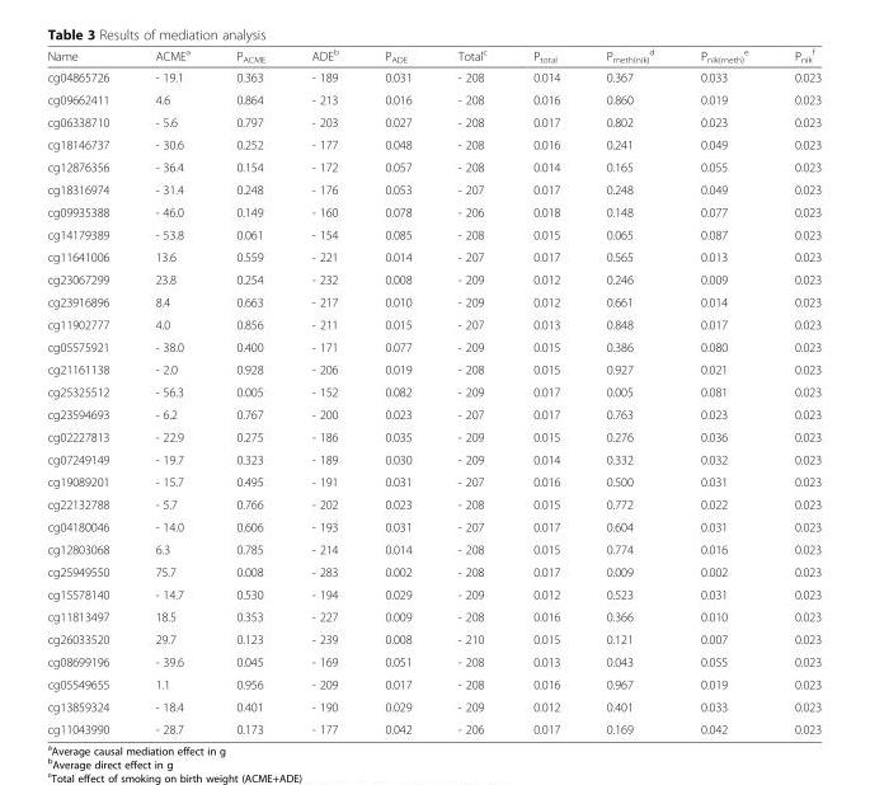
<table><thead><tr><td>Name</td><td>ACME<sup>a</sup></td><td>P<sub>ACME</sub></td><td>ADE<sup>b</sup></td><td>P<sub>ADE</sub></td><td>Total<sup>c</sup></td><td>P<sub>total</sub></td><td>P<sub>meth(nik)</sub> <sup>d</sup></td><td>P<sub>nik(meth)</sub> <sup>e</sup></td><td>P<sub>nik</sub> <sup>f</sup></td></tr></thead><tbody><tr><td>cg04865726</td><td>- 19.1</td><td>0.363</td><td>- 189</td><td>0.031</td><td>- 208</td><td>0.014</td><td>0.367</td><td>0.033</td><td>0.023</td></tr><tr><td>cg09662411</td><td>4.6</td><td>0.864</td><td>- 213</td><td>0.016</td><td>- 208</td><td>0.016</td><td>0.860</td><td>0.019</td><td>0.023</td></tr><tr><td>cg06338710</td><td>- 5.6</td><td>0.797</td><td>- 203</td><td>0.027</td><td>- 208</td><td>0.017</td><td>0.802</td><td>0.023</td><td>0.023</td></tr><tr><td>cg18146737</td><td>- 30.6</td><td>0.252</td><td>- 177</td><td>0.048</td><td>- 208</td><td>0.016</td><td>0.241</td><td>0.049</td><td>0.023</td></tr><tr><td>cg12876356</td><td>- 36.4</td><td>0.154</td><td>- 172</td><td>0.057</td><td>- 208</td><td>0.014</td><td>0.165</td><td>0.055</td><td>0.023</td></tr><tr><td>cg18316974</td><td>- 31.4</td><td>0.248</td><td>- 176</td><td>0.053</td><td>- 207</td><td>0.017</td><td>0.248</td><td>0.049</td><td>0.023</td></tr><tr><td>cg09935388</td><td>- 46.0</td><td>0.149</td><td>- 160</td><td>0.078</td><td>- 206</td><td>0.018</td><td>0.148</td><td>0.077</td><td>0.023</td></tr><tr><td>cg14179389</td><td>- 53.8</td><td>0.061</td><td>- 154</td><td>0.085</td><td>- 208</td><td>0.015</td><td>0.065</td><td>0.087</td><td>0.023</td></tr><tr><td>cg11641006</td><td>13.6</td><td>0.559</td><td>- 221</td><td>0.014</td><td>- 207</td><td>0.017</td><td>0.565</td><td>0.013</td><td>0.023</td></tr><tr><td>cg23067299</td><td>23.8</td><td>0.254</td><td>- 232</td><td>0.008</td><td>- 209</td><td>0.012</td><td>0.246</td><td>0.009</td><td>0.023</td></tr><tr><td>cg23916896</td><td>8.4</td><td>0.663</td><td>- 217</td><td>0.010</td><td>- 209</td><td>0.012</td><td>0.661</td><td>0.014</td><td>0.023</td></tr><tr><td>cg11902777</td><td>4.0</td><td>0.856</td><td>- 211</td><td>0.015</td><td>- 207</td><td>0.013</td><td>0.848</td><td>0.017</td><td>0.023</td></tr><tr><td>cg05575921</td><td>- 38.0</td><td>0.400</td><td>- 171</td><td>0.077</td><td>- 209</td><td>0.015</td><td>0.386</td><td>0.080</td><td>0.023</td></tr><tr><td>cg21161138</td><td>- 2.0</td><td>0.928</td><td>- 206</td><td>0.019</td><td>- 208</td><td>0.015</td><td>0.927</td><td>0.021</td><td>0.023</td></tr><tr><td>cg25325512</td><td>- 56.3</td><td>0.005</td><td>- 152</td><td>0.082</td><td>- 209</td><td>0.017</td><td>0.005</td><td>0.081</td><td>0.023</td></tr><tr><td>cg23594693</td><td>- 6.2</td><td>0.767</td><td>- 200</td><td>0.023</td><td>- 207</td><td>0.017</td><td>0.763</td><td>0.023</td><td>0.023</td></tr><tr><td>cg02227813</td><td>- 22.9</td><td>0.275</td><td>- 186</td><td>0.035</td><td>- 209</td><td>0.015</td><td>0.276</td><td>0.036</td><td>0.023</td></tr><tr><td>cg07249149</td><td>- 19.7</td><td>0.323</td><td>- 189</td><td>0.030</td><td>- 209</td><td>0.014</td><td>0.332</td><td>0.032</td><td>0.023</td></tr><tr><td>cg19089201</td><td>- 15.7</td><td>0.495</td><td>- 191</td><td>0.031</td><td>- 207</td><td>0.016</td><td>0.500</td><td>0.031</td><td>0.023</td></tr><tr><td>cg22132788</td><td>- 5.7</td><td>0.766</td><td>- 202</td><td>0.023</td><td>- 208</td><td>0.015</td><td>0.772</td><td>0.022</td><td>0.023</td></tr><tr><td>cg04180046</td><td>- 14.0</td><td>0.606</td><td>- 193</td><td>0.031</td><td>- 207</td><td>0.017</td><td>0.604</td><td>0.031</td><td>0.023</td></tr><tr><td>cg12803068</td><td>6.3</td><td>0.785</td><td>- 214</td><td>0.014</td><td>- 208</td><td>0.015</td><td>0.774</td><td>0.016</td><td>0.023</td></tr><tr><td>cg25949550</td><td>75.7</td><td>0.008</td><td>- 283</td><td>0.002</td><td>- 208</td><td>0.017</td><td>0.009</td><td>0.002</td><td>0.023</td></tr><tr><td>cg15578140</td><td>- 14.7</td><td>0.530</td><td>- 194</td><td>0.029</td><td>- 209</td><td>0.012</td><td>0.523</td><td>0.031</td><td>0.023</td></tr><tr><td>cg11813497</td><td>18.5</td><td>0.353</td><td>- 227</td><td>0.009</td><td>- 208</td><td>0.016</td><td>0.366</td><td>0.010</td><td>0.023</td></tr><tr><td>cg26033520</td><td>29.7</td><td>0.123</td><td>- 239</td><td>0.008</td><td>- 210</td><td>0.015</td><td>0.121</td><td>0.007</td><td>0.023</td></tr><tr><td>cg08699196</td><td>- 39.6</td><td>0.045</td><td>- 169</td><td>0.051</td><td>- 208</td><td>0.013</td><td>0.043</td><td>0.055</td><td>0.023</td></tr><tr><td>cg05549655</td><td>1.1</td><td>0.956</td><td>- 209</td><td>0.017</td><td>- 208</td><td>0.016</td><td>0.967</td><td>0.019</td><td>0.023</td></tr><tr><td>cg13859324</td><td>- 18.4</td><td>0.401</td><td>- 190</td><td>0.029</td><td>- 209</td><td>0.012</td><td>0.401</td><td>0.033</td><td>0.023</td></tr><tr><td>cg11043990</td><td>- 28.7</td><td>0.173</td><td>- 177</td><td>0.042</td><td>- 206</td><td>0.017</td><td>0.169</td><td>0.042</td><td>0.023</td></tr></tbody></table>